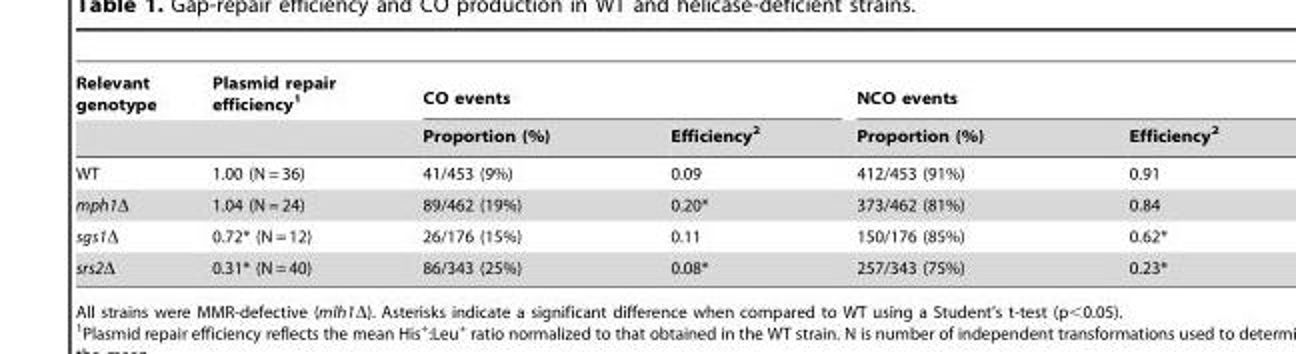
<table><thead><tr><td rowspan="2">Relevant genotype</td><td rowspan="2">Plasmid repair efficiency<sup>1</sup></td><td colspan="2">CO events</td><td colspan="2">NCO events</td></tr><tr><td>Proportion (%)</td><td>Efficiency<sup>2</sup></td><td>Proportion (%)</td><td>Efficiency<sup>2</sup></td></tr></thead><tbody><tr><td>WT</td><td>1.00 (N = 36)</td><td>41/453 (9%)</td><td>0.09</td><td>412/453 (91%)</td><td>0.91</td></tr><tr><td>mph1Δ</td><td>1.04 (N = 24)</td><td>89/462 (19%)</td><td>0.20*</td><td>373/462 (81%)</td><td>0.84</td></tr><tr><td>sgs1Δ</td><td>0.72* (N = 12)</td><td>26/176 (15%)</td><td>0.11</td><td>150/176 (85%)</td><td>0.62*</td></tr><tr><td>srs2Δ</td><td>0.31* (N = 40)</td><td>86/343 (25%)</td><td>0.08*</td><td>257/343 (75%)</td><td>0.23*</td></tr></tbody></table>